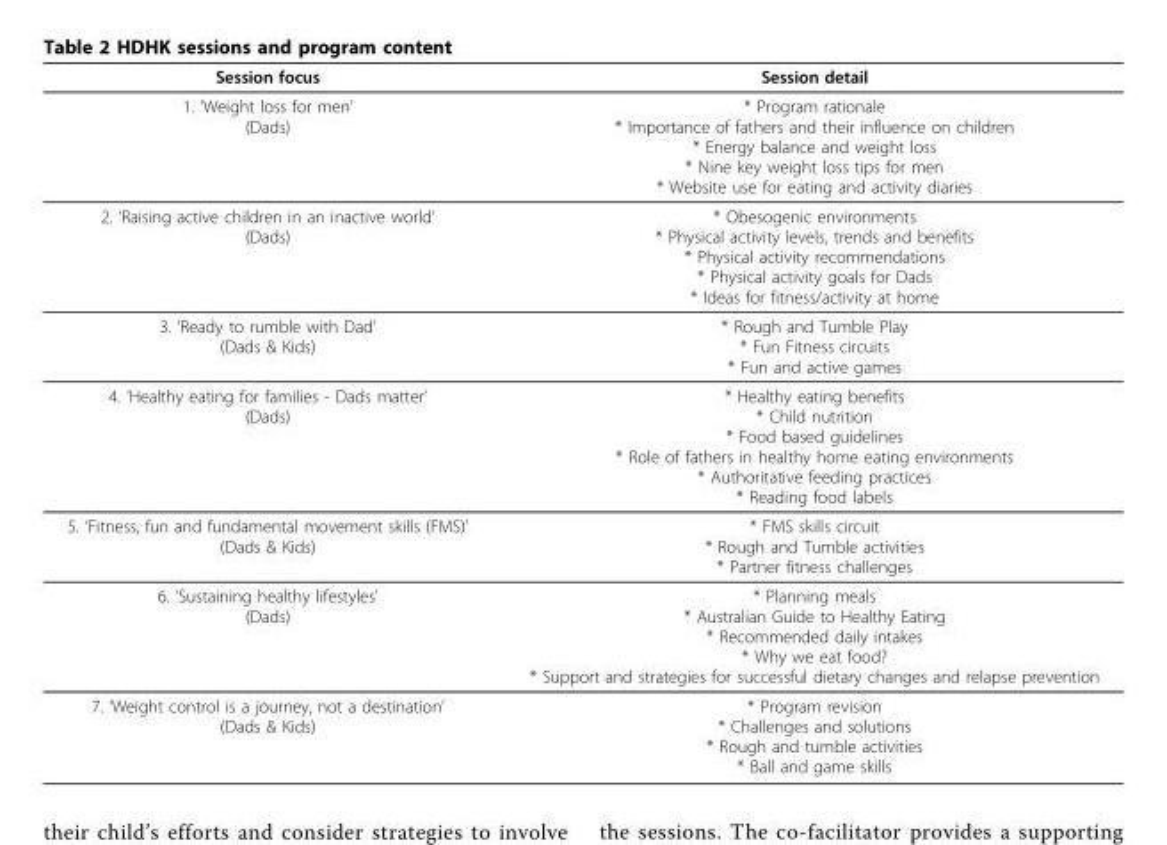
<table><thead><tr><td>Session focus</td><td>Session detail</td></tr></thead><tbody><tr><td>1. ‘Weight loss for men’ (Dads)</td><td>* Program rationale * Importance of fathers and their influence on children * Energy balance and weight loss * Nine key weight loss tips for men * Website use for eating and activity diaries</td></tr><tr><td>2. ‘Raising active children in an inactive world’ (Dads)</td><td>* Obesogenic environments * Physical activity levels, trends and benefits * Physical activity recommendations * Physical activity goals for Dads * Ideas for fitness/activity at home</td></tr><tr><td>3. ‘Ready to rumble with Dad’ (Dads &amp; Kids)</td><td>* Rough and Tumble Play * Fun Fitness circuits * Fun and active games</td></tr><tr><td>4. ‘Healthy eating for families - Dads matter’ (Dads)</td><td>* Healthy eating benefits * Child nutrition * Food based guidelines * Role of fathers in healthy home eating environments * Authoritative feeding practices * Reading food labels</td></tr><tr><td>5. ‘Fitness, fun and fundamental movement skills (FMS)’ (Dads &amp; Kids)</td><td>* FMS skills circuit * Rough and Tumble activities * Partner fitness challenges</td></tr><tr><td>6. ‘Sustaining healthy lifestyles’ (Dads)</td><td>* Planning meals * Australian Guide to Healthy Eating * Recommended daily intakes * Why we eat food? * Support and strategies for successful dietary changes and relapse prevention</td></tr><tr><td>7. ‘Weight control is a journey, not a destination’ (Dads &amp; Kids)</td><td>* Program revision * Challenges and solutions * Rough and tumble activities * Ball and game skills</td></tr></tbody></table>